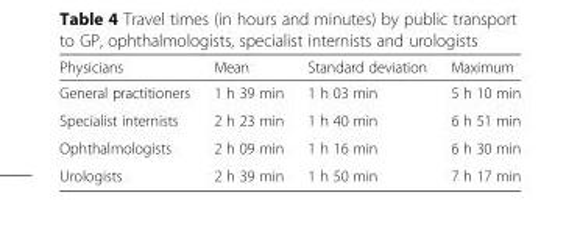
<table><thead><tr><td>Physicians</td><td>Mean</td><td>Standard deviation</td><td>Maximum</td></tr></thead><tbody><tr><td>General practitioners</td><td>1 h 39 min</td><td>1 h 03 min</td><td>5 h 10 min</td></tr><tr><td>Specialist internists</td><td>2 h 23 min</td><td>1 h 40 min</td><td>6 h 51 min</td></tr><tr><td>Ophthalmologists</td><td>2 h 09 min</td><td>1 h 16 min</td><td>6 h 30 min</td></tr><tr><td>Urologists</td><td>2 h 39 min</td><td>1 h 50 min</td><td>7 h 17 min</td></tr></tbody></table>